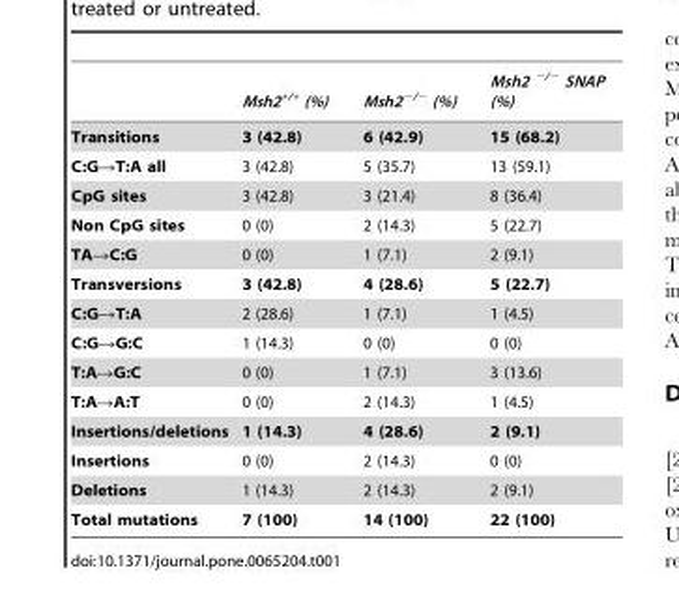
<table><thead><tr><td></td><td>Msh2<sup>+/+</sup> (%)</td><td>Msh2<sup>−/−</sup> (%)</td><td>Msh2 <sup>−/−</sup> SNAP (%)</td></tr></thead><tbody><tr><td>Transitions</td><td>3 (42.8)</td><td>6 (42.9)</td><td>15 (68.2)</td></tr><tr><td>C:G→T:A all</td><td>3 (42.8)</td><td>5 (35.7)</td><td>13 (59.1)</td></tr><tr><td>CpG sites</td><td>3 (42.8)</td><td>3 (21.4)</td><td>8 (36.4)</td></tr><tr><td>Non CpG sites</td><td>0 (0)</td><td>2 (14.3)</td><td>5 (22.7)</td></tr><tr><td>TA→C:G</td><td>0 (0)</td><td>1 (7.1)</td><td>2 (9.1)</td></tr><tr><td>Transversions</td><td>3 (42.8)</td><td>4 (28.6)</td><td>5 (22.7)</td></tr><tr><td>C:G→T:A</td><td>2 (28.6)</td><td>1 (7.1)</td><td>1 (4.5)</td></tr><tr><td>C:G→G:C</td><td>1 (14.3)</td><td>0 (0)</td><td>0 (0)</td></tr><tr><td>T:A→G:C</td><td>0 (0)</td><td>1 (7.1)</td><td>3 (13.6)</td></tr><tr><td>T:A→A:T</td><td>0 (0)</td><td>2 (14.3)</td><td>1 (4.5)</td></tr><tr><td>Insertions/deletions</td><td>1 (14.3)</td><td>4 (28.6)</td><td>2 (9.1)</td></tr><tr><td>Insertions</td><td>0 (0)</td><td>2 (14.3)</td><td>0 (0)</td></tr><tr><td>Deletions</td><td>1 (14.3)</td><td>2 (14.3)</td><td>2 (9.1)</td></tr><tr><td>Total mutations</td><td>7 (100)</td><td>14 (100)</td><td>22 (100)</td></tr></tbody></table>